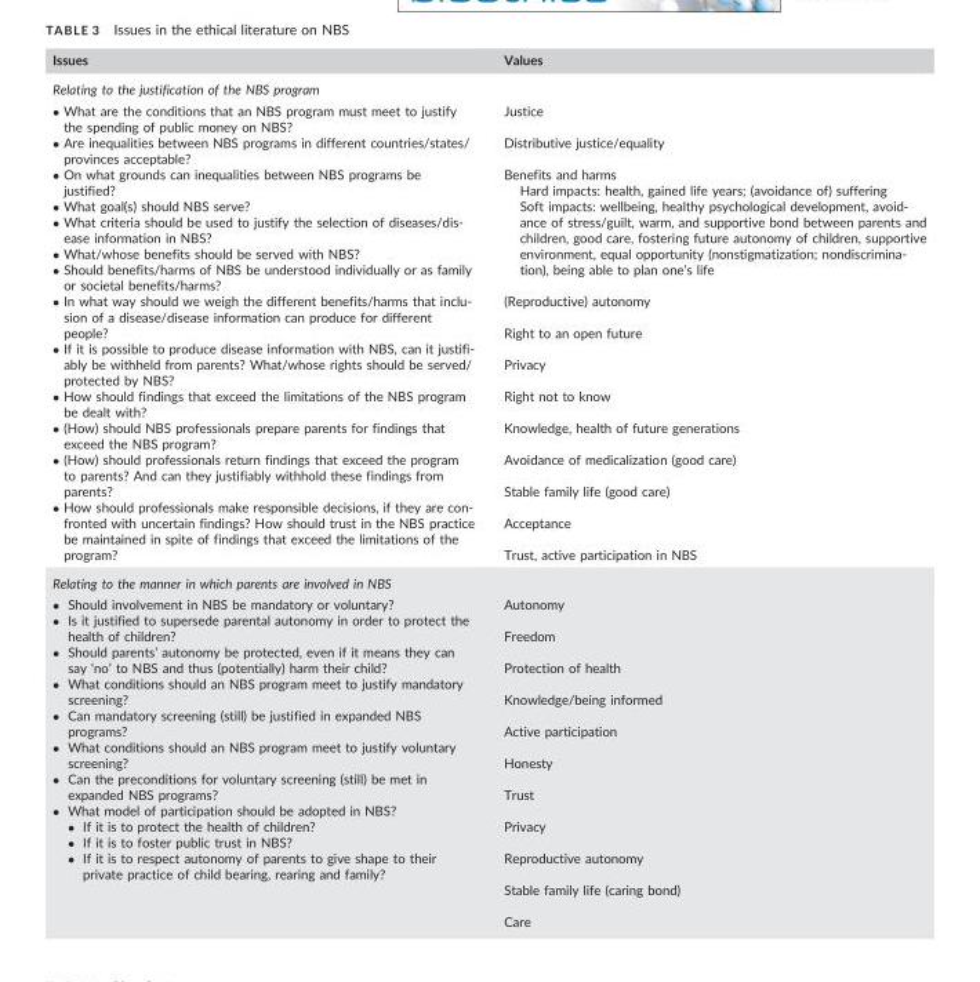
<table><thead><tr><td>Issues</td><td>Values</td></tr></thead><tbody><tr><td colspan="2">Relating to the justification of the NBS program</td></tr><tr><td>� What are the conditions that an NBS program must meet to justify the spending of public money on NBS? � Are inequalities between NBS programs in different countries/states/ provinces acceptable? � On what grounds can inequalities between NBS programs be justified? � What goal(s) should NBS serve? � What criteria should be used to justify the selection of diseases/dis- ease information in NBS? � What/whose benefits should be served with NBS? � Should benefits/harms of NBS be understood individually or as family or societal benefits/harms? � In what way should we weigh the different benefits/harms that inclu- sion of a disease/disease information can produce for different people? � If it is possible to produce disease information with NBS, can it justifi- ably be withheld from parents? What/whose rights should be served/ protected by NBS? � How should findings that exceed the limitations of the NBS program be dealt with? � (How) should NBS professionals prepare parents for findings that exceed the NBS program? � (How) should professionals return findings that exceed the program to parents? And can they justifiably withhold these findings from parents? � How should professionals make responsible decisions, if they are con- fronted with uncertain findings? How should trust in the NBS practice be maintained in spite of findings that exceed the limitations of the program?</td><td>Justice Distributive justice/equality Benefits and harms Hard impacts: health, gained life years; (avoidance of) suffering Soft impacts: wellbeing, healthy psychological development, avoid- ance of stress/guilt, warm, and supportive bond between parents and children, good care, fostering future autonomy of children, supportive environment, equal opportunity (nonstigmatization; nondiscrimina- tion), being able to plan one’s life (Reproductive) autonomy Right to an open future Privacy Right not to know Knowledge, health of future generations Avoidance of medicalization (good care) Stable family life (good care) Acceptance Trust, active participation in NBS</td></tr><tr><td colspan="2">Relating to the manner in which parents are involved in NBS</td></tr><tr><td>� Should involvement in NBS be mandatory or voluntary? � Is it justified to supersede parental autonomy in order to protect the health of children? � Should parents’ autonomy be protected, even if it means they can say ‘no’ to NBS and thus (potentially) harm their child? � What conditions should an NBS program meet to justify mandatory screening? � Can mandatory screening (still) be justified in expanded NBS programs? � What conditions should an NBS program meet to justify voluntary screening? � Can the preconditions for voluntary screening (still) be met in expanded NBS programs? � What model of participation should be adopted in NBS? � If it is to protect the health of children? � If it is to foster public trust in NBS? � If it is to respect autonomy of parents to give shape to their private practice of child bearing, rearing and family?</td><td>Autonomy Freedom Protection of health Knowledge/being informed Active participation Honesty Trust Privacy Reproductive autonomy Stable family life (caring bond) Care</td></tr></tbody></table>